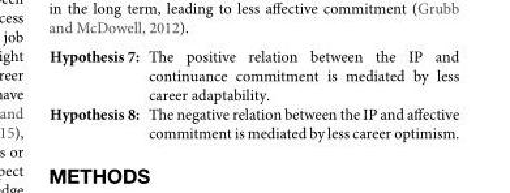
<table><tbody><tr><td>Hypothesis 7:</td><td>The positive relation between the IP and continuance commitment is mediated by less career adaptability.</td></tr><tr><td>Hypothesis 8:</td><td>The negative relation between the IP and affective commitment is mediated by less career optimism.</td></tr></tbody></table>